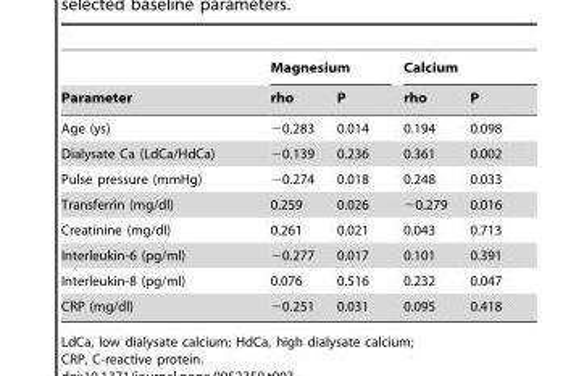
<table><thead><tr><td rowspan="2">Parameter</td><td colspan="2">Magnesium</td><td colspan="2">Calcium</td></tr><tr><td>rho</td><td>P</td><td>rho</td><td>P</td></tr></thead><tbody><tr><td>Age (ys)</td><td>−0.283</td><td>0.014</td><td>0.194</td><td>0.098</td></tr><tr><td>Dialysate Ca (LdCa/HdCa)</td><td>−0.139</td><td>0.236</td><td>0.361</td><td>0.002</td></tr><tr><td>Pulse pressure (mmHg)</td><td>−0.274</td><td>0.018</td><td>0.248</td><td>0.033</td></tr><tr><td>Transferrin (mg/dl)</td><td>0.259</td><td>0.026</td><td>−0.279</td><td>0.016</td></tr><tr><td>Creatinine (mg/dl)</td><td>0.261</td><td>0.021</td><td>0.043</td><td>0.713</td></tr><tr><td>Interleukin-6 (pg/ml)</td><td>−0.277</td><td>0.017</td><td>0.101</td><td>0.391</td></tr><tr><td>Interleukin-8 (pg/ml)</td><td>0.076</td><td>0.516</td><td>0.232</td><td>0.047</td></tr><tr><td>CRP (mg/dl)</td><td>−0.251</td><td>0.031</td><td>0.095</td><td>0.418</td></tr></tbody></table>